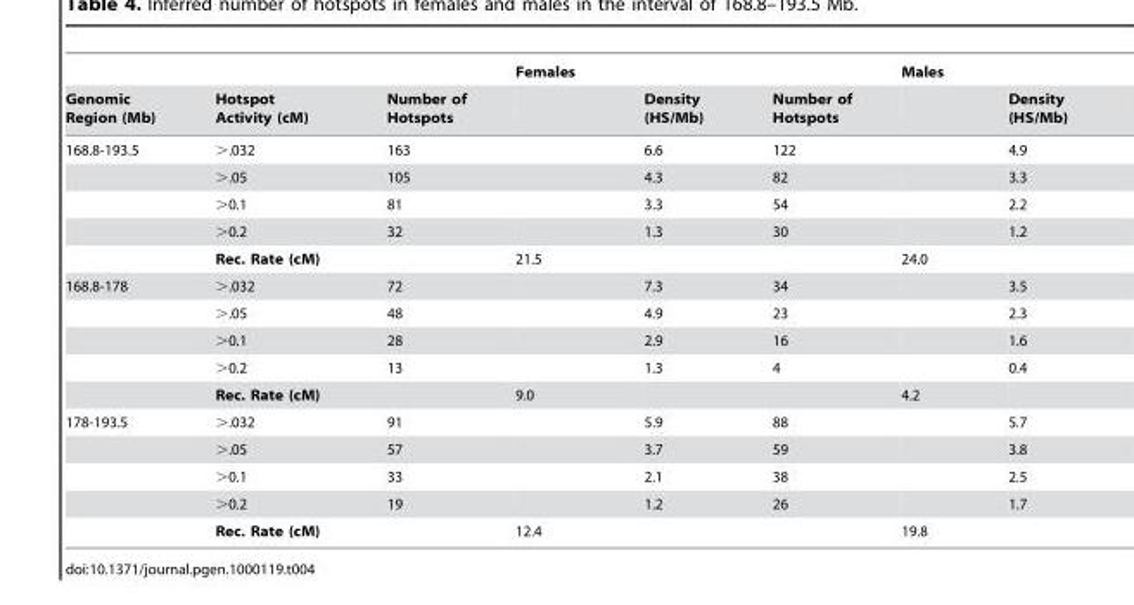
<table><thead><tr><td rowspan="2">Genomic Region (Mb)</td><td rowspan="2">Hotspot Activity (cM)</td><td rowspan="2">Number of Hotspots</td><td rowspan="2">Females</td><td rowspan="2">Density (HS/Mb)</td><td rowspan="2">Number of Hotspots</td><td rowspan="2">Males</td><td rowspan="2">Density (HS/Mb)</td></tr><tr></tr></thead><tbody><tr><td rowspan="5">168.8-193.5</td><td>&gt;.032</td><td>163</td><td></td><td>6.6</td><td>122</td><td></td><td>4.9</td></tr><tr><td>&gt;.05</td><td>105</td><td></td><td>4.3</td><td>82</td><td></td><td>3.3</td></tr><tr><td>&gt;0.1</td><td>81</td><td></td><td>3.3</td><td>54</td><td></td><td>2.2</td></tr><tr><td>&gt;0.2</td><td>32</td><td></td><td>1.3</td><td>30</td><td></td><td>1.2</td></tr><tr><td>Rec. Rate (cM)</td><td></td><td>21.5</td><td></td><td></td><td>24.0</td><td></td></tr><tr><td rowspan="5">168.8-178</td><td>&gt;.032</td><td>72</td><td></td><td>7.3</td><td>34</td><td></td><td>3.5</td></tr><tr><td>&gt;.05</td><td>48</td><td></td><td>4.9</td><td>23</td><td></td><td>2.3</td></tr><tr><td>&gt;0.1</td><td>28</td><td></td><td>2.9</td><td>16</td><td></td><td>1.6</td></tr><tr><td>&gt;0.2</td><td>13</td><td></td><td>1.3</td><td>4</td><td></td><td>0.4</td></tr><tr><td>Rec. Rate (cM)</td><td></td><td>9.0</td><td></td><td></td><td>4.2</td><td></td></tr><tr><td rowspan="5">178-193.5</td><td>&gt;.032</td><td>91</td><td></td><td>5.9</td><td>88</td><td></td><td>5.7</td></tr><tr><td>&gt;.05</td><td>57</td><td></td><td>3.7</td><td>59</td><td></td><td>3.8</td></tr><tr><td>&gt;0.1</td><td>33</td><td></td><td>2.1</td><td>38</td><td></td><td>2.5</td></tr><tr><td>&gt;0.2</td><td>19</td><td></td><td>1.2</td><td>26</td><td></td><td>1.7</td></tr><tr><td>Rec. Rate (cM)</td><td></td><td>12.4</td><td></td><td></td><td>19.8</td><td></td></tr></tbody></table>